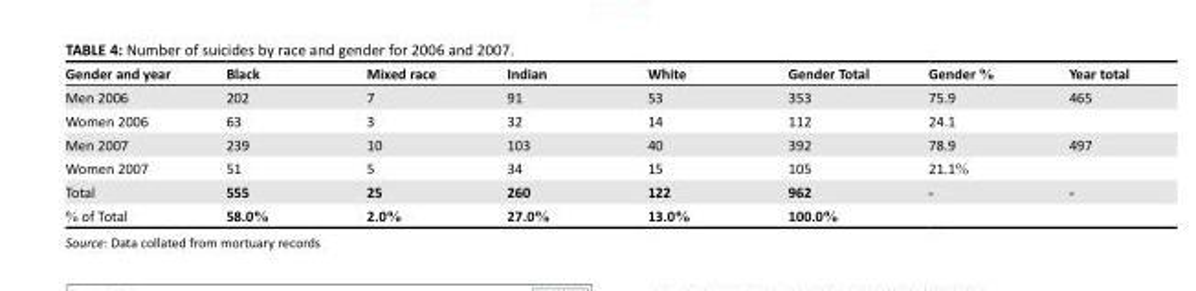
<table><thead><tr><td>Gender and year</td><td>Black</td><td>Mixed race</td><td>Indian</td><td>White</td><td>Gender Total</td><td>Gender %</td><td>Year total</td></tr></thead><tbody><tr><td>Men 2006</td><td>202</td><td>7</td><td>91</td><td>53</td><td>353</td><td>75.9</td><td>465</td></tr><tr><td>Women 2006</td><td>63</td><td>3</td><td>32</td><td>14</td><td>112</td><td>24.1</td><td></td></tr><tr><td>Men 2007</td><td>239</td><td>10</td><td>103</td><td>40</td><td>392</td><td>78.9</td><td>497</td></tr><tr><td>Women 2007</td><td>51</td><td>5</td><td>34</td><td>15</td><td>105</td><td>21.1%</td><td></td></tr><tr><td>Total</td><td>555</td><td>25</td><td>260</td><td>122</td><td>962</td><td>-</td><td>-</td></tr><tr><td>% of Total</td><td>58.0%</td><td>2.0%</td><td>27.0%</td><td>13.0%</td><td>100.0%</td><td></td><td></td></tr></tbody></table>